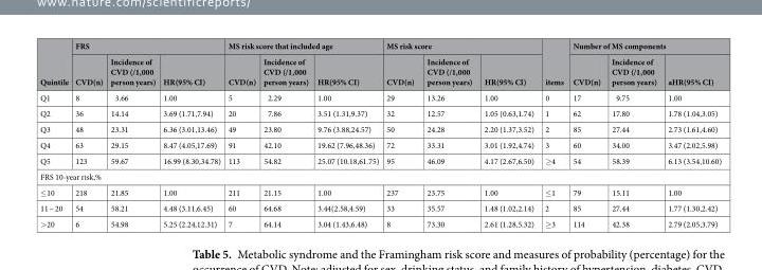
<table><thead><tr><td rowspan="2">Quintile</td><td colspan="3">FRS</td><td colspan="3">MS risk score that included age</td><td colspan="3">MS risk score</td><td rowspan="2">items</td><td colspan="3">Number of MS components</td></tr><tr><td>CVD(n)</td><td>Incidence of CVD (/1,000 person years)</td><td>HR(95% CI)</td><td>CVD(n)</td><td>Incidence of CVD (/1,000 person years)</td><td>HR(95% CI)</td><td>CVD(n)</td><td>Incidence of CVD (/1,000 person years)</td><td>HR(95% CI)</td><td>CVD(n)</td><td>Incidence of CVD (/1,000 person years)</td><td>aHR(95% CI)</td></tr></thead><tbody><tr><td>Q1</td><td>8</td><td>3.66</td><td>1.00</td><td>5</td><td>2.29</td><td>1.00</td><td>29</td><td>13.26</td><td>1.00</td><td>0</td><td>17</td><td>9.75</td><td>1.00</td></tr><tr><td>Q2</td><td>36</td><td>14.14</td><td>3.69 (1.71,7.94)</td><td>20</td><td>7.86</td><td>3.51 (1.31,9.37)</td><td>32</td><td>12.57</td><td>1.05 (0.63,1.74)</td><td>1</td><td>62</td><td>17.80</td><td>1.78 (1.04,3.05)</td></tr><tr><td>Q3</td><td>48</td><td>23.31</td><td>6.36 (3.01,13.46)</td><td>49</td><td>23.80</td><td>9.76 (3.88,24.57)</td><td>50</td><td>24.28</td><td>2.20 (1.37,3.52)</td><td>2</td><td>85</td><td>27.44</td><td>2.73 (1.61,4.60)</td></tr><tr><td>Q4</td><td>63</td><td>29.15</td><td>8.47 (4.05,17.69)</td><td>91</td><td>42.10</td><td>19.62 (7.96,48.36)</td><td>72</td><td>33.31</td><td>3.01 (1.92,4.74)</td><td>3</td><td>60</td><td>34.00</td><td>3.47 (2.02,5.98)</td></tr><tr><td>Q5</td><td>123</td><td>59.67</td><td>16.99 (8.30,34.78)</td><td>113</td><td>54.82</td><td>25.07 (10.18,61.75)</td><td>95</td><td>46.09</td><td>4.17 (2.67,6.50)</td><td>≥4</td><td>54</td><td>58.39</td><td>6.13 (3.54,10.60)</td></tr><tr><td colspan="14">FRS 10-year risk,%</td></tr><tr><td>≤10</td><td>218</td><td>21.85</td><td>1.00</td><td>211</td><td>21.15</td><td>1.00</td><td>237</td><td>23.75</td><td>1.00</td><td>≤1</td><td>79</td><td>15.11</td><td>1.00</td></tr><tr><td>11 ~ 20</td><td>54</td><td>58.21</td><td>4.48 (3.11,6.45)</td><td>60</td><td>64.68</td><td>3.44(2.58,4.59)</td><td>33</td><td>35.57</td><td>1.48 (1.02,2.14)</td><td>2</td><td>85</td><td>27.44</td><td>1.77 (1.30,2.42)</td></tr><tr><td>&gt;20</td><td>6</td><td>54.98</td><td>5.25 (2.24,12.31)</td><td>7</td><td>64.14</td><td>3.04 (1.43,6.48)</td><td>8</td><td>73.30</td><td>2.61 (1.28,5.32)</td><td>≥3</td><td>114</td><td>42.38</td><td>2.79 (2.05,3.79)</td></tr></tbody></table>